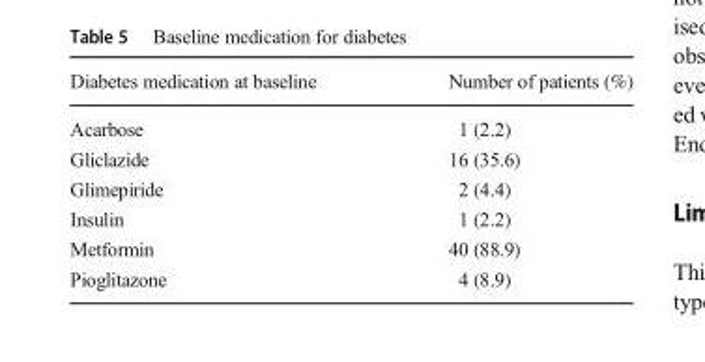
<table><thead><tr><td>Diabetes medication at baseline</td><td>Number of patients (%)</td></tr></thead><tbody><tr><td>Acarbose</td><td>1 (2.2)</td></tr><tr><td>Gliclazide</td><td>16 (35.6)</td></tr><tr><td>Glimepiride</td><td>2 (4.4)</td></tr><tr><td>Insulin</td><td>1 (2.2)</td></tr><tr><td>Metformin</td><td>40 (88.9)</td></tr><tr><td>Pioglitazone</td><td>4 (8.9)</td></tr></tbody></table>